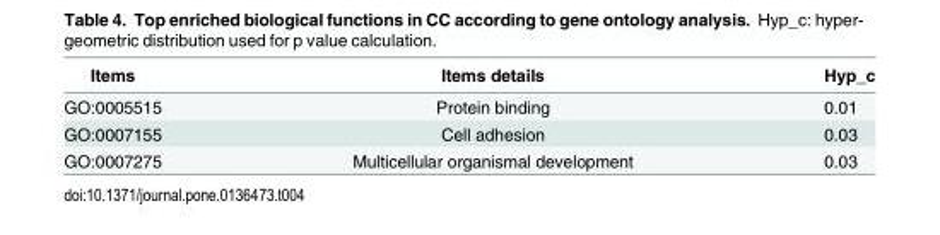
<table><thead><tr><td>Items</td><td>Items details</td><td>Hyp_c</td></tr></thead><tbody><tr><td>GO:0005515</td><td>Protein binding</td><td>0.01</td></tr><tr><td>GO:0007155</td><td>Cell adhesion</td><td>0.03</td></tr><tr><td>GO:0007275</td><td>Multicellular organismal development</td><td>0.03</td></tr></tbody></table>